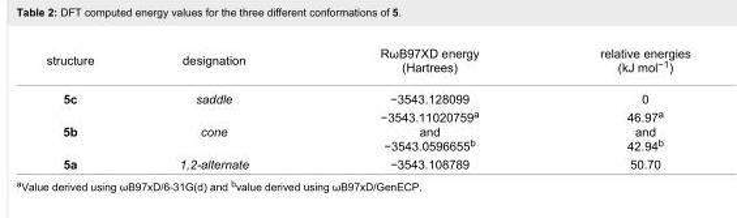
<table><tbody><tr><td>structure</td><td>designation</td><td>RωB97XD energy (Hartrees)</td><td>relative energies (kJ mol<sup>−1</sup>)</td></tr><tr><td>5c</td><td>saddle</td><td>−3543.128099</td><td>0</td></tr><tr><td>5b</td><td>cone</td><td>−3543.11020759<sup>a</sup> and −3543.0596655<sup>b</sup></td><td>46.97<sup>a</sup> and 42.94<sup>b</sup></td></tr><tr><td>5a</td><td>1,2-alternate</td><td>−3543.108789</td><td>50.70</td></tr></tbody></table>